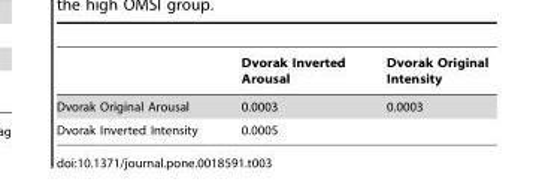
<table><thead><tr><td></td><td>Dvorak Inverted Arousal</td><td>Dvorak Original Intensity</td></tr></thead><tbody><tr><td>Dvorak Original Arousal</td><td>0.0003</td><td>0.0003</td></tr><tr><td>Dvorak Inverted Intensity</td><td>0.0005</td><td></td></tr></tbody></table>